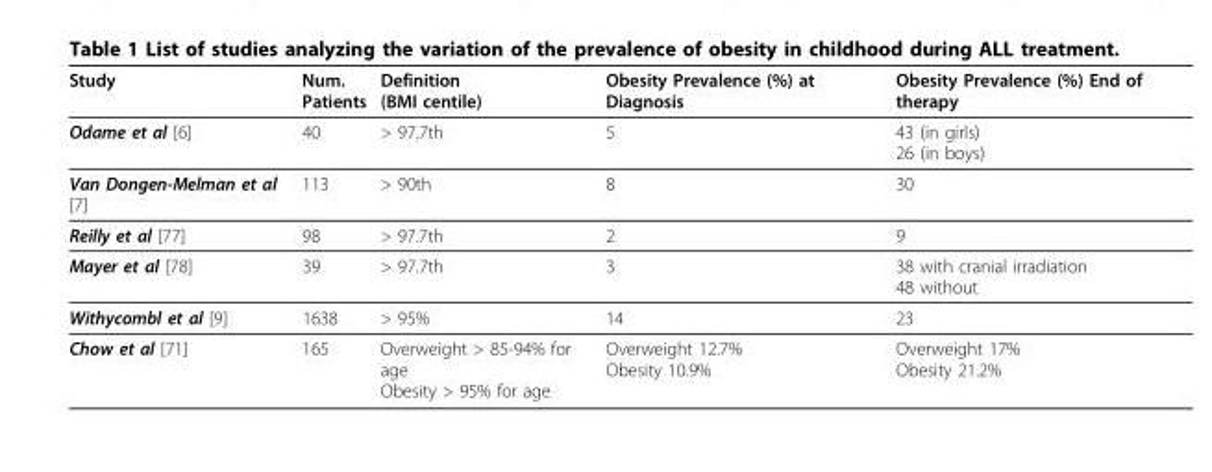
<table><thead><tr><td>Study</td><td>Num. Patients</td><td>Definition (BMI centile)</td><td>Obesity Prevalence (%) at Diagnosis</td><td>Obesity Prevalence (%) End of therapy</td></tr></thead><tbody><tr><td>Odame et al [6]</td><td>40</td><td>&gt; 97.7th</td><td>5</td><td>43 (in girls) 26 (in boys)</td></tr><tr><td>Van Dongen-Melman et al [7]</td><td>113</td><td>&gt; 90th</td><td>8</td><td>30</td></tr><tr><td>Reilly et al [77]</td><td>98</td><td>&gt; 97.7th</td><td>2</td><td>9</td></tr><tr><td>Mayer et al [78]</td><td>39</td><td>&gt; 97.7th</td><td>3</td><td>38 with cranial irradiation 48 without</td></tr><tr><td>Withycombl et al [9]</td><td>1638</td><td>&gt; 95%</td><td>14</td><td>23</td></tr><tr><td>Chow et al [71]</td><td>165</td><td>Overweight &gt; 85-94% for age Obesity &gt; 95% for age</td><td>Overweight 12.7% Obesity 10.9%</td><td>Overweight 17% Obesity 21.2%</td></tr></tbody></table>